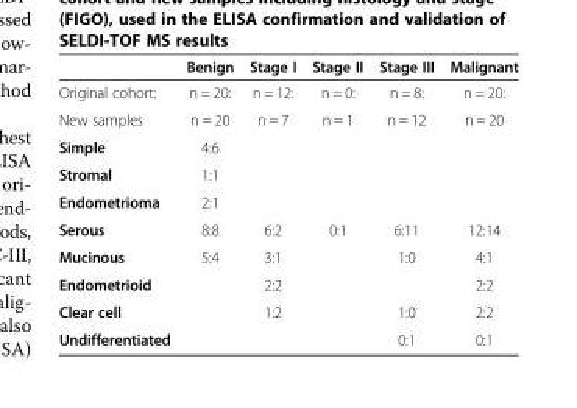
<table><thead><tr><td></td><td>Benign</td><td>Stage I</td><td>Stage II</td><td>Stage III</td><td>Malignant</td></tr></thead><tbody><tr><td>Original cohort:</td><td>n = 20:</td><td>n = 12:</td><td>n = 0:</td><td>n = 8:</td><td>n = 20:</td></tr><tr><td>New samples</td><td>n = 20</td><td>n = 7</td><td>n = 1</td><td>n = 12</td><td>n = 20</td></tr><tr><td>Simple</td><td>4:6</td><td></td><td></td><td></td><td></td></tr><tr><td>Stromal</td><td>1:1</td><td></td><td></td><td></td><td></td></tr><tr><td>Endometrioma</td><td>2:1</td><td></td><td></td><td></td><td></td></tr><tr><td>Serous</td><td>8:8</td><td>6:2</td><td>0:1</td><td>6:11</td><td>12:14</td></tr><tr><td>Mucinous</td><td>5:4</td><td>3:1</td><td></td><td>1:0</td><td>4:1</td></tr><tr><td>Endometrioid</td><td></td><td>2:2</td><td></td><td></td><td>2:2</td></tr><tr><td>Clear cell</td><td></td><td>1:2</td><td></td><td>1:0</td><td>2:2</td></tr><tr><td>Undifferentiated</td><td></td><td></td><td></td><td>0:1</td><td>0:1</td></tr></tbody></table>